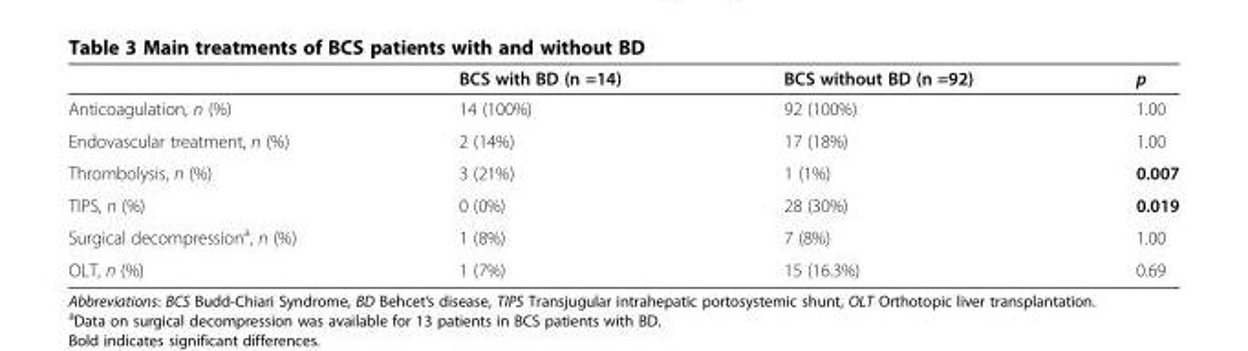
<table><thead><tr><td></td><td>BCS with BD (n =14)</td><td>BCS without BD (n =92)</td><td>p</td></tr></thead><tbody><tr><td>Anticoagulation, n (%)</td><td>14 (100%)</td><td>92 (100%)</td><td>1.00</td></tr><tr><td>Endovascular treatment, n (%)</td><td>2 (14%)</td><td>17 (18%)</td><td>1.00</td></tr><tr><td>Thrombolysis, n (%)</td><td>3 (21%)</td><td>1 (1%)</td><td>0.007</td></tr><tr><td>TIPS, n (%)</td><td>0 (0%)</td><td>28 (30%)</td><td>0.019</td></tr><tr><td>Surgical decompression<sup>a</sup>, n (%)</td><td>1 (8%)</td><td>7 (8%)</td><td>1.00</td></tr><tr><td>OLT, n (%)</td><td>1 (7%)</td><td>15 (16.3%)</td><td>0.69</td></tr></tbody></table>